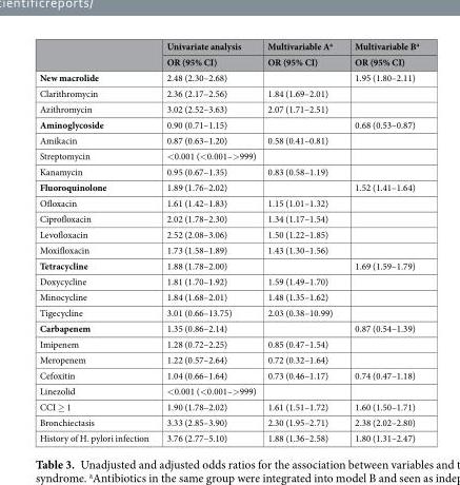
<table><thead><tr><td rowspan="2"></td><td rowspan="2">Univariate analysis OR (95% CI)</td><td rowspan="2">Multivariable A<sup>a</sup> OR (95% CI)</td><td rowspan="2">Multivariable B<sup>a</sup> OR (95% CI)</td></tr><tr></tr></thead><tbody><tr><td>New macrolide</td><td>2.48 (2.30–2.68)</td><td></td><td>1.95 (1.80–2.11)</td></tr><tr><td>Clarithromycin</td><td>2.36 (2.17–2.56)</td><td>1.84 (1.69–2.01)</td><td></td></tr><tr><td>Azithromycin</td><td>3.02 (2.52–3.63)</td><td>2.07 (1.71–2.51)</td><td></td></tr><tr><td>Aminoglycoside</td><td>0.90 (0.71–1.15)</td><td></td><td>0.68 (0.53–0.87)</td></tr><tr><td>Amikacin</td><td>0.87 (0.63–1.20)</td><td>0.58 (0.41–0.81)</td><td></td></tr><tr><td>Streptomycin</td><td>&lt;0.001 (&lt;0.001–&gt;999)</td><td></td><td></td></tr><tr><td>Kanamycin</td><td>0.95 (0.67–1.35)</td><td>0.83 (0.58–1.19)</td><td></td></tr><tr><td>Fluoroquinolone</td><td>1.89 (1.76–2.02)</td><td></td><td>1.52 (1.41–1.64)</td></tr><tr><td>Ofloxacin</td><td>1.61 (1.42–1.83)</td><td>1.15 (1.01–1.32)</td><td></td></tr><tr><td>Ciprofloxacin</td><td>2.02 (1.78–2.30)</td><td>1.34 (1.17–1.54)</td><td></td></tr><tr><td>Levofloxacin</td><td>2.52 (2.08–3.06)</td><td>1.50 (1.22–1.85)</td><td></td></tr><tr><td>Moxifloxacin</td><td>1.73 (1.58–1.89)</td><td>1.43 (1.30–1.56)</td><td></td></tr><tr><td>Tetracycline</td><td>1.88 (1.78–2.00)</td><td></td><td>1.69 (1.59–1.79)</td></tr><tr><td>Doxycycline</td><td>1.81 (1.70–1.92)</td><td>1.59 (1.49–1.70)</td><td></td></tr><tr><td>Minocycline</td><td>1.84 (1.68–2.01)</td><td>1.48 (1.35–1.62)</td><td></td></tr><tr><td>Tigecycline</td><td>3.01 (0.66–13.75)</td><td>2.03 (0.38–10.99)</td><td></td></tr><tr><td>Carbapenem</td><td>1.35 (0.86–2.14)</td><td></td><td>0.87 (0.54–1.39)</td></tr><tr><td>Imipenem</td><td>1.28 (0.72–2.25)</td><td>0.85 (0.47–1.54)</td><td></td></tr><tr><td>Meropenem</td><td>1.22 (0.57–2.64)</td><td>0.72 (0.32–1.64)</td><td></td></tr><tr><td>Cefoxitin</td><td>1.04 (0.66–1.64)</td><td>0.73 (0.46–1.17)</td><td>0.74 (0.47–1.18)</td></tr><tr><td>Linezolid</td><td>&lt;0.001 (&lt;0.001–&gt;999)</td><td></td><td></td></tr><tr><td>CCI ≥ 1</td><td>1.90 (1.78–2.02)</td><td>1.61 (1.51–1.72)</td><td>1.60 (1.50–1.71)</td></tr><tr><td>Bronchiectasis</td><td>3.33 (2.85–3.90)</td><td>2.30 (1.95–2.71)</td><td>2.38 (2.02–2.80)</td></tr><tr><td>History of H. pylori infection</td><td>3.76 (2.77–5.10)</td><td>1.88 (1.36–2.58)</td><td>1.80 (1.31–2.47)</td></tr></tbody></table>